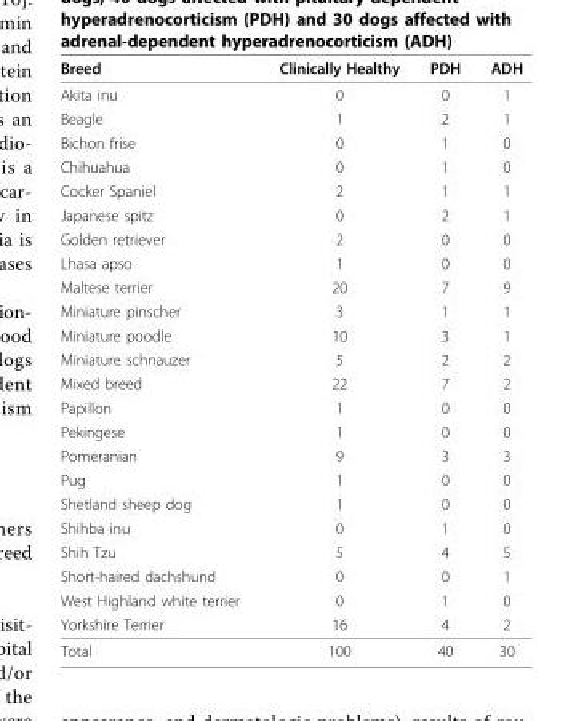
<table><thead><tr><td>Breed</td><td>Clinically Healthy</td><td>PDH</td><td>ADH</td></tr></thead><tbody><tr><td>Akita inu</td><td>0</td><td>0</td><td>1</td></tr><tr><td>Beagle</td><td>1</td><td>2</td><td>1</td></tr><tr><td>Bichon frise</td><td>0</td><td>1</td><td>0</td></tr><tr><td>Chihuahua</td><td>0</td><td>1</td><td>0</td></tr><tr><td>Cocker Spaniel</td><td>2</td><td>1</td><td>1</td></tr><tr><td>Japanese spitz</td><td>0</td><td>2</td><td>1</td></tr><tr><td>Golden retriever</td><td>2</td><td>0</td><td>0</td></tr><tr><td>Lhasa apso</td><td>1</td><td>0</td><td>0</td></tr><tr><td>Maltese terrier</td><td>20</td><td>7</td><td>9</td></tr><tr><td>Miniature pinscher</td><td>3</td><td>1</td><td>1</td></tr><tr><td>Miniature poodle</td><td>10</td><td>3</td><td>1</td></tr><tr><td>Miniature schnauzer</td><td>5</td><td>2</td><td>2</td></tr><tr><td>Mixed breed</td><td>22</td><td>7</td><td>2</td></tr><tr><td>Papillon</td><td>1</td><td>0</td><td>0</td></tr><tr><td>Pekingese</td><td>1</td><td>0</td><td>0</td></tr><tr><td>Pomeranian</td><td>9</td><td>3</td><td>3</td></tr><tr><td>Pug</td><td>1</td><td>0</td><td>0</td></tr><tr><td>Shetland sheep dog</td><td>1</td><td>0</td><td>0</td></tr><tr><td>Shihba inu</td><td>0</td><td>1</td><td>0</td></tr><tr><td>Shih Tzu</td><td>5</td><td>4</td><td>5</td></tr><tr><td>Short-haired dachshund</td><td>0</td><td>0</td><td>1</td></tr><tr><td>West Highland white terrier</td><td>0</td><td>1</td><td>0</td></tr><tr><td>Yorkshire Terrier</td><td>16</td><td>4</td><td>2</td></tr><tr><td>Total</td><td>100</td><td>40</td><td>30</td></tr></tbody></table>